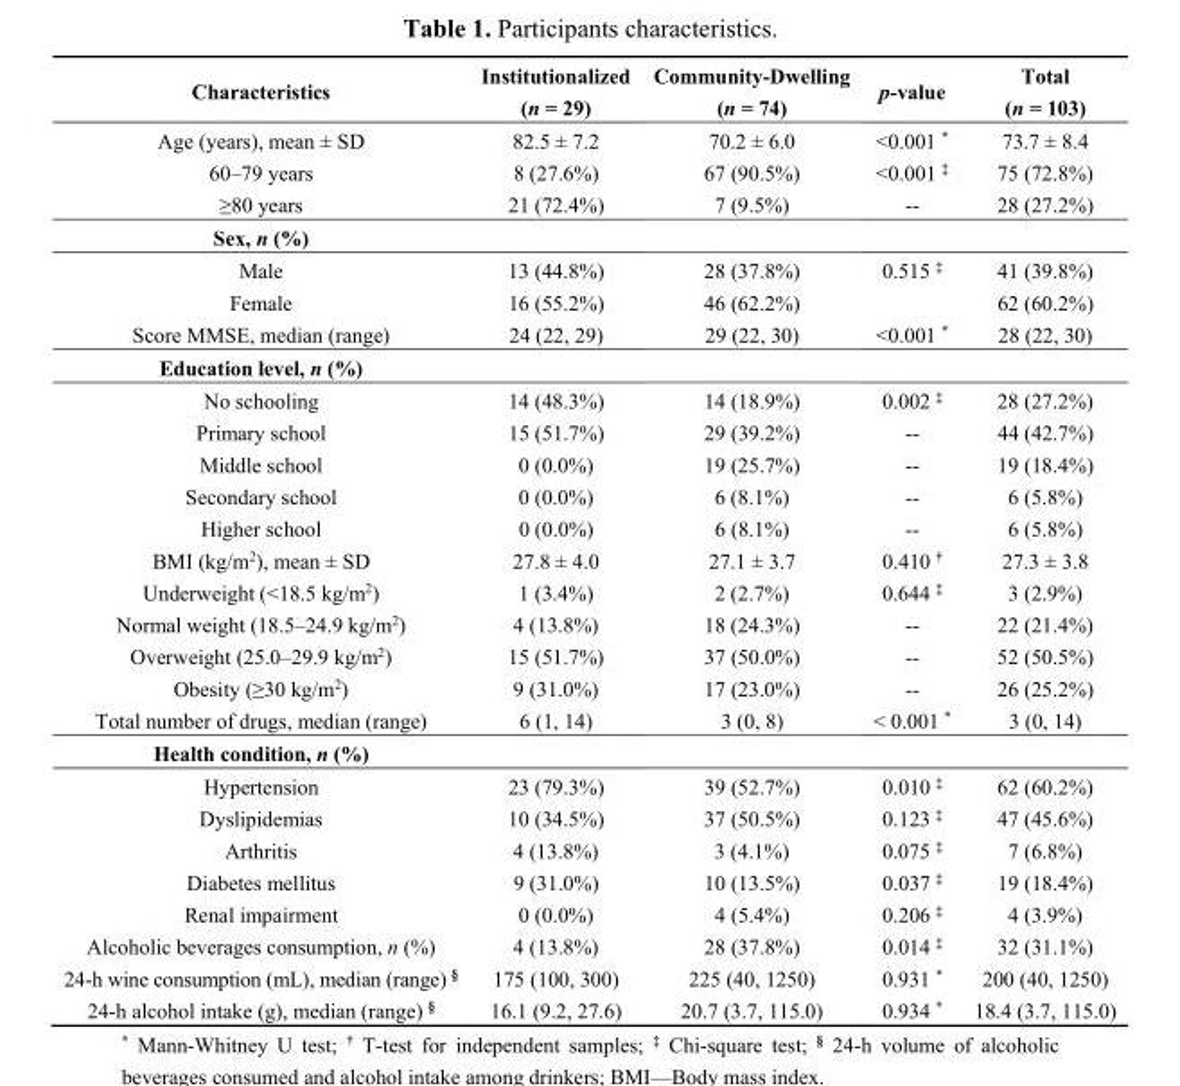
<table><thead><tr><td>Characteristics</td><td>Institutionalized (n = 29)</td><td>Community-Dwelling (n = 74)</td><td>p-value</td><td>Total (n = 103)</td></tr></thead><tbody><tr><td>Age (years), mean ± SD</td><td>82.5 ± 7.2</td><td>70.2 ± 6.0</td><td>&lt;0.001 *</td><td>73.7 ± 8.4</td></tr><tr><td>60–79 years</td><td>8 (27.6%)</td><td>67 (90.5%)</td><td>&lt;0.001 <sup>‡</sup></td><td>75 (72.8%)</td></tr><tr><td>≥80 years</td><td>21 (72.4%)</td><td>7 (9.5%)</td><td>--</td><td>28 (27.2%)</td></tr><tr><td colspan="5">Sex, n (%)</td></tr><tr><td>Male</td><td>13 (44.8%)</td><td>28 (37.8%)</td><td>0.515 <sup>‡</sup></td><td>41 (39.8%)</td></tr><tr><td>Female</td><td>16 (55.2%)</td><td>46 (62.2%)</td><td></td><td>62 (60.2%)</td></tr><tr><td>Score MMSE, median (range)</td><td>24 (22, 29)</td><td>29 (22, 30)</td><td>&lt;0.001 *</td><td>28 (22, 30)</td></tr><tr><td colspan="5">Education level, n (%)</td></tr><tr><td>No schooling</td><td>14 (48.3%)</td><td>14 (18.9%)</td><td>0.002 <sup>‡</sup></td><td>28 (27.2%)</td></tr><tr><td>Primary school</td><td>15 (51.7%)</td><td>29 (39.2%)</td><td>--</td><td>44 (42.7%)</td></tr><tr><td>Middle school</td><td>0 (0.0%)</td><td>19 (25.7%)</td><td>--</td><td>19 (18.4%)</td></tr><tr><td>Secondary school</td><td>0 (0.0%)</td><td>6 (8.1%)</td><td>--</td><td>6 (5.8%)</td></tr><tr><td>Higher school</td><td>0 (0.0%)</td><td>6 (8.1%)</td><td>--</td><td>6 (5.8%)</td></tr><tr><td>BMI (kg/m<sup>2</sup>), mean ± SD</td><td>27.8 ± 4.0</td><td>27.1 ± 3.7</td><td>0.410 <sup>†</sup></td><td>27.3 ± 3.8</td></tr><tr><td>Underweight (&lt;18.5 kg/m<sup>2</sup>)</td><td>1 (3.4%)</td><td>2 (2.7%)</td><td>0.644 <sup>‡</sup></td><td>3 (2.9%)</td></tr><tr><td>Normal weight (18.5–24.9 kg/m<sup>2</sup>)</td><td>4 (13.8%)</td><td>18 (24.3%)</td><td>--</td><td>22 (21.4%)</td></tr><tr><td>Overweight (25.0–29.9 kg/m<sup>2</sup>)</td><td>15 (51.7%)</td><td>37 (50.0%)</td><td>--</td><td>52 (50.5%)</td></tr><tr><td>Obesity (≥30 kg/m<sup>2</sup>)</td><td>9 (31.0%)</td><td>17 (23.0%)</td><td>--</td><td>26 (25.2%)</td></tr><tr><td>Total number of drugs, median (range)</td><td>6 (1, 14)</td><td>3 (0, 8)</td><td>&lt; 0.001 *</td><td>3 (0, 14)</td></tr><tr><td colspan="5">Health condition, n (%)</td></tr><tr><td>Hypertension</td><td>23 (79.3%)</td><td>39 (52.7%)</td><td>0.010 <sup>‡</sup></td><td>62 (60.2%)</td></tr><tr><td>Dyslipidemias</td><td>10 (34.5%)</td><td>37 (50.5%)</td><td>0.123 <sup>‡</sup></td><td>47 (45.6%)</td></tr><tr><td>Arthritis</td><td>4 (13.8%)</td><td>3 (4.1%)</td><td>0.075 <sup>‡</sup></td><td>7 (6.8%)</td></tr><tr><td>Diabetes mellitus</td><td>9 (31.0%)</td><td>10 (13.5%)</td><td>0.037 <sup>‡</sup></td><td>19 (18.4%)</td></tr><tr><td>Renal impairment</td><td>0 (0.0%)</td><td>4 (5.4%)</td><td>0.206 <sup>‡</sup></td><td>4 (3.9%)</td></tr><tr><td>Alcoholic beverages consumption, n (%)</td><td>4 (13.8%)</td><td>28 (37.8%)</td><td>0.014 <sup>‡</sup></td><td>32 (31.1%)</td></tr><tr><td>24-h wine consumption (mL), median (range) <sup>§</sup></td><td>175 (100, 300)</td><td>225 (40, 1250)</td><td>0.931 *</td><td>200 (40, 1250)</td></tr><tr><td>24-h alcohol intake (g), median (range) <sup>§</sup></td><td>16.1 (9.2, 27.6)</td><td>20.7 (3.7, 115.0)</td><td>0.934 *</td><td>18.4 (3.7, 115.0)</td></tr></tbody></table>